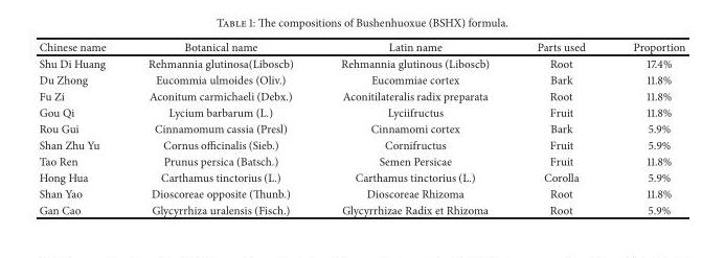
<table><thead><tr><td>Chinese name</td><td>Botanical name</td><td>Latin name</td><td>Parts used</td><td>Proportion</td></tr></thead><tbody><tr><td>Shu Di Huang</td><td>Rehmannia glutinosa(Liboscb)</td><td>Rehmannia glutinous (Liboscb)</td><td>Root</td><td>17.4%</td></tr><tr><td>Du Zhong</td><td>Eucommia ulmoides (Oliv.)</td><td>Eucommiae cortex</td><td>Bark</td><td>11.8%</td></tr><tr><td>Fu Zi</td><td>Aconitum carmichaeli (Debx.)</td><td>Aconitilateralis radix preparata</td><td>Root</td><td>11.8%</td></tr><tr><td>Gou Qi</td><td>Lycium barbarum (L.)</td><td>Lyciifructus</td><td>Fruit</td><td>11.8%</td></tr><tr><td>Rou Gui</td><td>Cinnamomum cassia (Presl)</td><td>Cinnamomi cortex</td><td>Bark</td><td>5.9%</td></tr><tr><td>Shan Zhu Yu</td><td>Cornus officinalis (Sieb.)</td><td>Cornifructus</td><td>Fruit</td><td>5.9%</td></tr><tr><td>Tao Ren</td><td>Prunus persica (Batsch.)</td><td>Semen Persicae</td><td>Fruit</td><td>11.8%</td></tr><tr><td>Hong Hua</td><td>Carthamus tinctorius (L.)</td><td>Carthamus tinctorius (L.)</td><td>Corolla</td><td>5.9%</td></tr><tr><td>Shan Yao</td><td>Dioscoreae opposite (Thunb.)</td><td>Dioscoreae Rhizoma</td><td>Root</td><td>11.8%</td></tr><tr><td>Gan Cao</td><td>Glycyrrhiza uralensis (Fisch.)</td><td>Glycyrrhizae Radix et Rhizoma</td><td>Root</td><td>5.9%</td></tr></tbody></table>